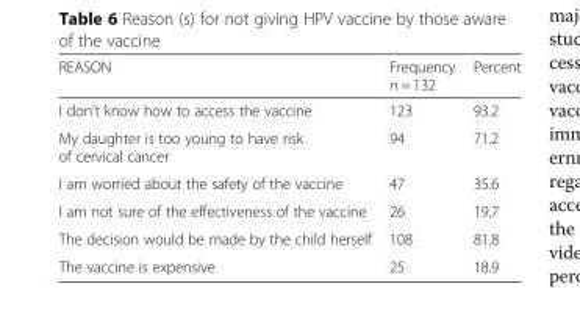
<table><thead><tr><td>REASON</td><td>Frequency n = 132</td><td>Percent</td></tr></thead><tbody><tr><td>I don’t know how to access the vaccine</td><td>123</td><td>93.2</td></tr><tr><td>My daughter is too young to have risk of cervical cancer</td><td>94</td><td>71.2</td></tr><tr><td>I am worried about the safety of the vaccine</td><td>47</td><td>35.6</td></tr><tr><td>I am not sure of the effectiveness of the vaccine</td><td>26</td><td>19.7</td></tr><tr><td>The decision would be made by the child herself</td><td>108</td><td>81.8</td></tr><tr><td>The vaccine is expensive</td><td>25</td><td>18.9</td></tr></tbody></table>